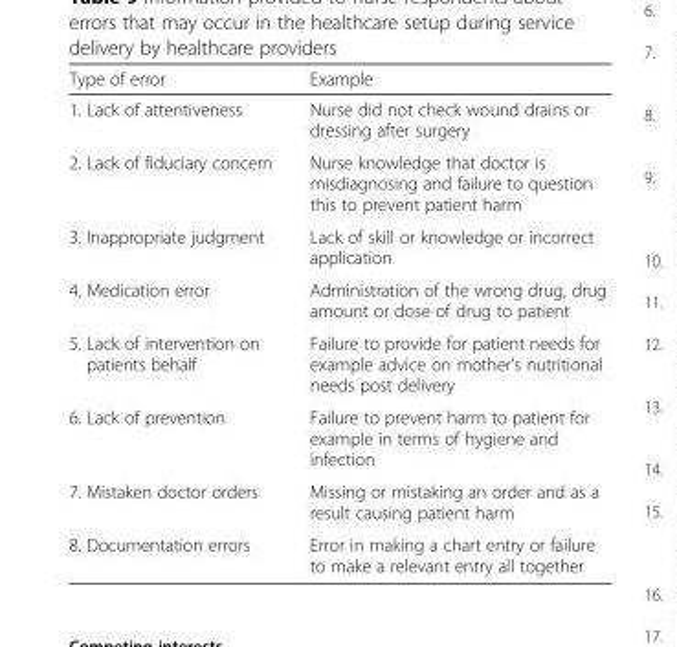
<table><thead><tr><td>Type of error</td><td>Example</td></tr></thead><tbody><tr><td>1. Lack of attentiveness</td><td>Nurse did not check wound drains or dressing after surgery</td></tr><tr><td>2. Lack of fiduciary concern</td><td>Nurse knowledge that doctor is misdiagnosing and failure to question this to prevent patient harm</td></tr><tr><td>3. Inappropriate judgment</td><td>Lack of skill or knowledge or incorrect application</td></tr><tr><td>4. Medication error</td><td>Administration of the wrong drug, drug amount or dose of drug to patient</td></tr><tr><td>5. Lack of intervention on patients behalf</td><td>Failure to provide for patient needs for example advice on mother’s nutritional needs post delivery</td></tr><tr><td>6. Lack of prevention</td><td>Failure to prevent harm to patient for example in terms of hygiene and infection</td></tr><tr><td>7. Mistaken doctor orders</td><td>Missing or mistaking an order and as a result causing patient harm</td></tr><tr><td>8. Documentation errors</td><td>Error in making a chart entry or failure to make a relevant entry all together</td></tr></tbody></table>